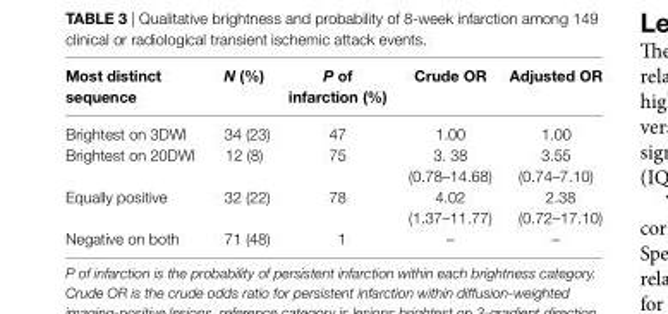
<table><thead><tr><td>Most distinct sequence</td><td>N (%)</td><td>P of infarction (%)</td><td>crude Or</td><td>adjusted Or</td></tr></thead><tbody><tr><td>Brightest on 3DWI</td><td>34 (23)</td><td>47</td><td>1.00</td><td>1.00</td></tr><tr><td>Brightest on 20DWI</td><td>12 (8)</td><td>75</td><td>3. 38 (0.78–14.68)</td><td>3.55 (0.74–7.10)</td></tr><tr><td>Equally positive</td><td>32 (22)</td><td>78</td><td>4.02 (1.37–11.77)</td><td>2.38 (0.72–17.10)</td></tr><tr><td>Negative on both</td><td>71 (48)</td><td>1</td><td>–</td><td>–</td></tr></tbody></table>